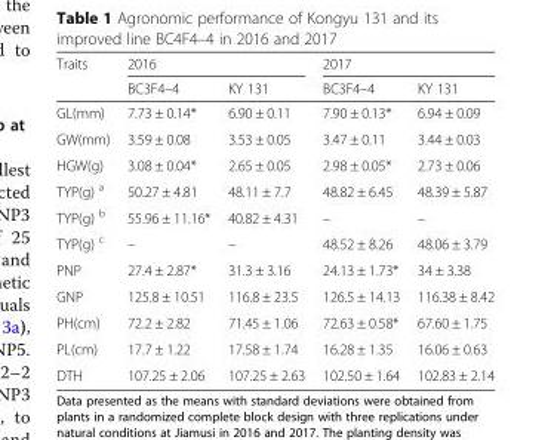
<table><thead><tr><td rowspan="2">Traits</td><td colspan="2">2016</td><td colspan="2">2017</td></tr><tr><td>BC3F4–4</td><td>KY 131</td><td>BC3F4–4</td><td>KY 131</td></tr></thead><tbody><tr><td>GL(mm)</td><td>7.73 ± 0.14*</td><td>6.90 ± 0.11</td><td>7.90 ± 0.13*</td><td>6.94 ± 0.09</td></tr><tr><td>GW(mm)</td><td>3.59 ± 0.08</td><td>3.53 ± 0.05</td><td>3.47 ± 0.11</td><td>3.44 ± 0.03</td></tr><tr><td>HGW(g)</td><td>3.08 ± 0.04*</td><td>2.65 ± 0.05</td><td>2.98 ± 0.05*</td><td>2.73 ± 0.06</td></tr><tr><td>TYP(g) <sup>a</sup></td><td>50.27 ± 4.81</td><td>48.11 ± 7.7</td><td>48.82 ± 6.45</td><td>48.39 ± 5.87</td></tr><tr><td>TYP(g) <sup>b</sup></td><td>55.96 ± 11.16*</td><td>40.82 ± 4.31</td><td>–</td><td>–</td></tr><tr><td>TYP(g) <sup>c</sup></td><td>–</td><td>–</td><td>48.52 ± 8.26</td><td>48.06 ± 3.79</td></tr><tr><td>PNP</td><td>27.4 ± 2.87*</td><td>31.3 ± 3.16</td><td>24.13 ± 1.73*</td><td>34 ± 3.38</td></tr><tr><td>GNP</td><td>125.8 ± 10.51</td><td>116.8 ± 23.5</td><td>126.5 ± 14.13</td><td>116.38 ± 8.42</td></tr><tr><td>PH(cm)</td><td>72.2 ± 2.82</td><td>71.45 ± 1.06</td><td>72.63 ± 0.58*</td><td>67.60 ± 1.75</td></tr><tr><td>PL(cm)</td><td>17.7 ± 1.22</td><td>17.58 ± 1.74</td><td>16.28 ± 1.35</td><td>16.06 ± 0.63</td></tr><tr><td>DTH</td><td>107.25 ± 2.06</td><td>107.25 ± 2.63</td><td>102.50 ± 1.64</td><td>102.83 ± 2.14</td></tr></tbody></table>